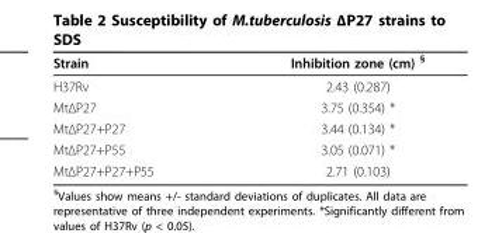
<table><thead><tr><td>Strain</td><td>Inhibition zone (cm) <sup>§</sup></td></tr></thead><tbody><tr><td>H37Rv</td><td>2.43 (0.287)</td></tr><tr><td>MtΔP27</td><td>3.75 (0.354) *</td></tr><tr><td>MtΔP27+P27</td><td>3.44 (0.134) *</td></tr><tr><td>MtΔP27+P55</td><td>3.05 (0.071) *</td></tr><tr><td>MtΔP27+P27+P55</td><td>2.71 (0.103)</td></tr></tbody></table>